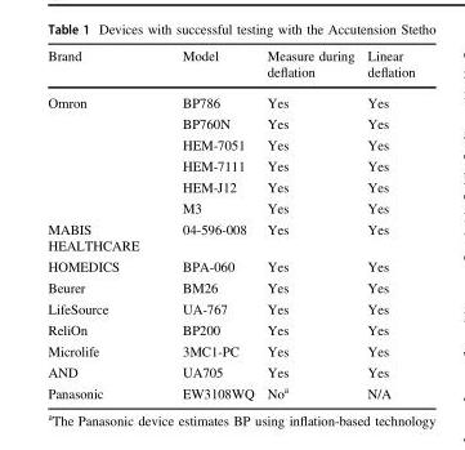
<table><thead><tr><td>Brand</td><td>Model</td><td>Measure during deflation</td><td>Linear deflation</td></tr></thead><tbody><tr><td rowspan="6">Omron</td><td>BP786</td><td>Yes</td><td>Yes</td></tr><tr><td>BP760N</td><td>Yes</td><td>Yes</td></tr><tr><td>HEM-7051</td><td>Yes</td><td>Yes</td></tr><tr><td>HEM-7111</td><td>Yes</td><td>Yes</td></tr><tr><td>HEM-J12</td><td>Yes</td><td>Yes</td></tr><tr><td>M3</td><td>Yes</td><td>Yes</td></tr><tr><td>MABIS HEALTHCARE</td><td>04-596-008</td><td>Yes</td><td>Yes</td></tr><tr><td>HOMEDICS</td><td>BPA-060</td><td>Yes</td><td>Yes</td></tr><tr><td>Beurer</td><td>BM26</td><td>Yes</td><td>Yes</td></tr><tr><td>LifeSource</td><td>UA-767</td><td>Yes</td><td>Yes</td></tr><tr><td>ReliOn</td><td>BP200</td><td>Yes</td><td>Yes</td></tr><tr><td>Microlife</td><td>3MC1-PC</td><td>Yes</td><td>Yes</td></tr><tr><td>AND</td><td>UA705</td><td>Yes</td><td>Yes</td></tr><tr><td>Panasonic</td><td>EW3108WQ</td><td>No<sup>a</sup></td><td>N/A</td></tr></tbody></table>